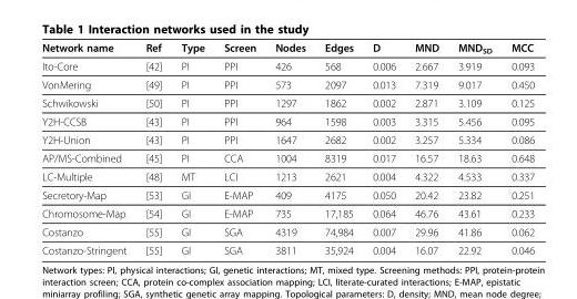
<table><thead><tr><td>Network name</td><td>Ref</td><td>Type</td><td>Screen</td><td>Nodes</td><td>Edges</td><td>D</td><td>MND</td><td>MND<sub>SD</sub></td><td>MCC</td></tr></thead><tbody><tr><td>Ito-Core</td><td>[42]</td><td>PI</td><td>PPI</td><td>426</td><td>568</td><td>0.006</td><td>2.667</td><td>3.919</td><td>0.093</td></tr><tr><td>VonMering</td><td>[49]</td><td>PI</td><td>PPI</td><td>573</td><td>2097</td><td>0.013</td><td>7.319</td><td>9.017</td><td>0.450</td></tr><tr><td>Schwikowski</td><td>[50]</td><td>PI</td><td>PPI</td><td>1297</td><td>1862</td><td>0.002</td><td>2.871</td><td>3.109</td><td>0.125</td></tr><tr><td>Y2H-CCSB</td><td>[43]</td><td>PI</td><td>PPI</td><td>964</td><td>1598</td><td>0.003</td><td>3.315</td><td>5.456</td><td>0.095</td></tr><tr><td>Y2H-Union</td><td>[43]</td><td>PI</td><td>PPI</td><td>1647</td><td>2682</td><td>0.002</td><td>3.257</td><td>5.334</td><td>0.086</td></tr><tr><td>AP/MS-Combined</td><td>[45]</td><td>PI</td><td>CCA</td><td>1004</td><td>8319</td><td>0.017</td><td>16.57</td><td>18.63</td><td>0.648</td></tr><tr><td>LC-Multiple</td><td>[48]</td><td>MT</td><td>LCI</td><td>1213</td><td>2621</td><td>0.004</td><td>4.322</td><td>4.533</td><td>0.337</td></tr><tr><td>Secretory-Map</td><td>[53]</td><td>GI</td><td>E-MAP</td><td>409</td><td>4175</td><td>0.050</td><td>20.42</td><td>23.82</td><td>0.251</td></tr><tr><td>Chromosome-Map</td><td>[54]</td><td>GI</td><td>E-MAP</td><td>735</td><td>17,185</td><td>0.064</td><td>46.76</td><td>43.61</td><td>0.233</td></tr><tr><td>Costanzo</td><td>[55]</td><td>GI</td><td>SGA</td><td>4319</td><td>74,984</td><td>0.007</td><td>29.96</td><td>41.86</td><td>0.062</td></tr><tr><td>Costanzo-Stringent</td><td>[55]</td><td>GI</td><td>SGA</td><td>3811</td><td>35,924</td><td>0.004</td><td>16.07</td><td>22.92</td><td>0.046</td></tr></tbody></table>